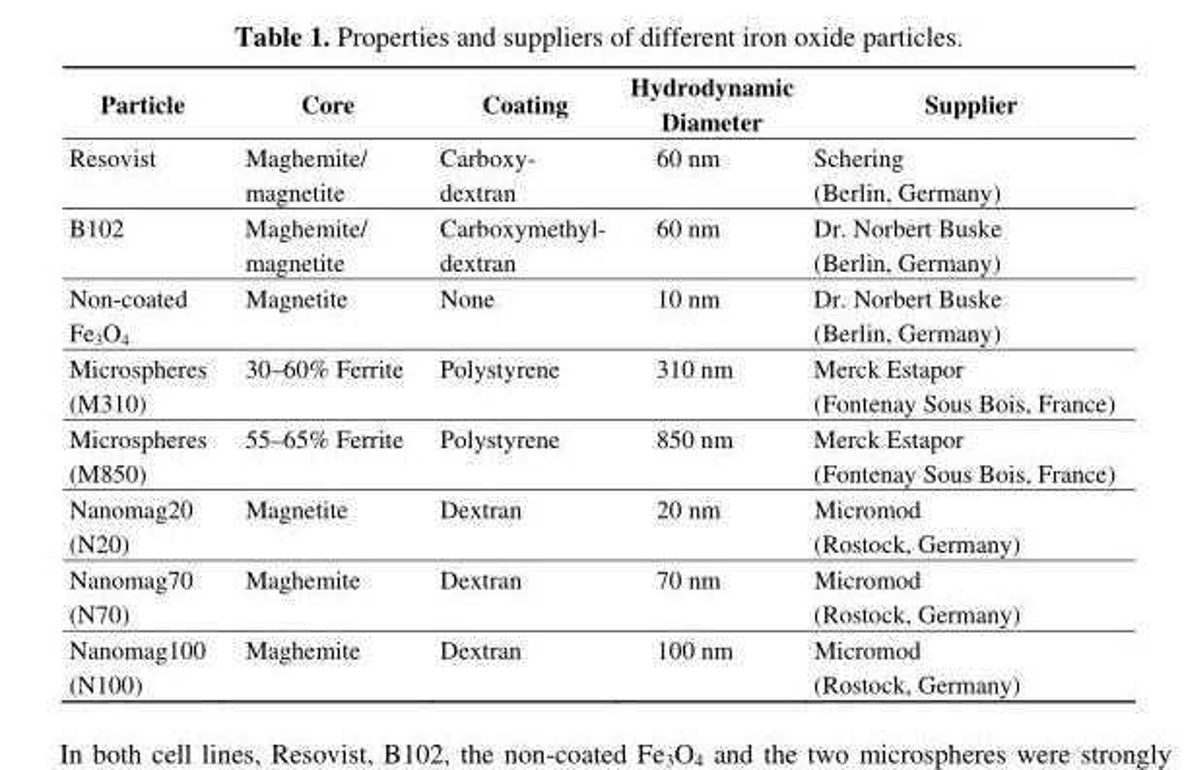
<table><thead><tr><td>Particle</td><td>Core</td><td>Coating</td><td>Hydrodynamic Diameter</td><td>Supplier</td></tr></thead><tbody><tr><td>Resovist</td><td>Maghemite/ magnetite</td><td>Carboxy- dextran</td><td>60 nm</td><td>Schering (Berlin, Germany)</td></tr><tr><td>B102</td><td>Maghemite/ magnetite</td><td>Carboxymethyl- dextran</td><td>60 nm</td><td>Dr. Norbert Buske (Berlin, Germany)</td></tr><tr><td>Non-coated Fe<sub>3</sub>O<sub>4</sub></td><td>Magnetite</td><td>None</td><td>10 nm</td><td>Dr. Norbert Buske (Berlin, Germany)</td></tr><tr><td>Microspheres (M310)</td><td>30–60% Ferrite</td><td>Polystyrene</td><td>310 nm</td><td>Merck Estapor (Fontenay Sous Bois, France)</td></tr><tr><td>Microspheres (M850)</td><td>55–65% Ferrite</td><td>Polystyrene</td><td>850 nm</td><td>Merck Estapor (Fontenay Sous Bois, France)</td></tr><tr><td>Nanomag20 (N20)</td><td>Magnetite</td><td>Dextran</td><td>20 nm</td><td>Micromod (Rostock, Germany)</td></tr><tr><td>Nanomag70 (N70)</td><td>Maghemite</td><td>Dextran</td><td>70 nm</td><td>Micromod (Rostock, Germany)</td></tr><tr><td>Nanomag100 (N100)</td><td>Maghemite</td><td>Dextran</td><td>100 nm</td><td>Micromod (Rostock, Germany)</td></tr></tbody></table>